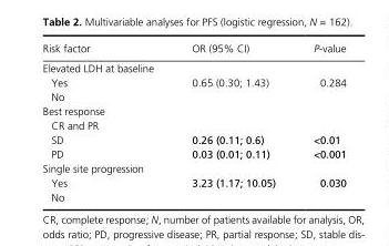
<table><thead><tr><td>Risk factor</td><td>OR (95% CI)</td><td>P- value</td></tr></thead><tbody><tr><td colspan="3">Elevated LDH at baseline</td></tr><tr><td>Yes</td><td>0.65 (0.30; 1.43)</td><td>0.284</td></tr><tr><td colspan="3">No</td></tr><tr><td colspan="3">Best response</td></tr><tr><td colspan="3">CR and PR</td></tr><tr><td>SD</td><td>0.26 (0.11; 0.6)</td><td>&lt;0.01</td></tr><tr><td>PD</td><td>0.03 (0.01; 0.11)</td><td>&lt;0.001</td></tr><tr><td colspan="3">Single site progression</td></tr><tr><td>Yes</td><td>3.23 (1.17; 10.05)</td><td>0.030</td></tr><tr><td>No</td><td></td><td></td></tr></tbody></table>